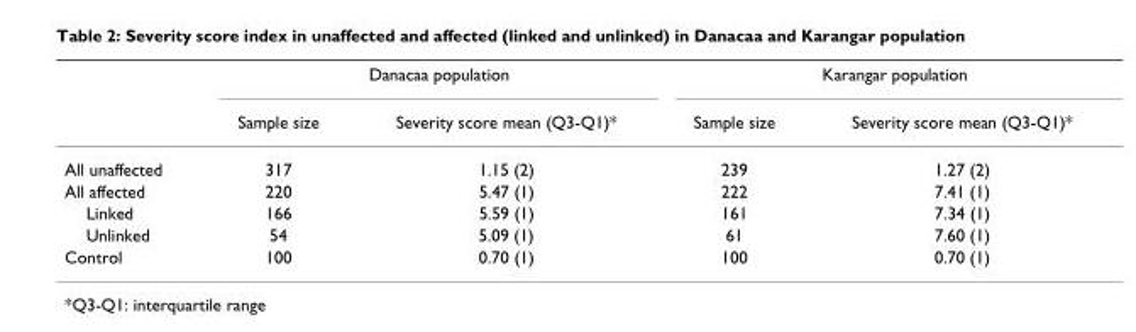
<table><thead><tr><td rowspan="2"></td><td colspan="2">Danacaa population</td><td colspan="2">Karangar population</td></tr><tr><td>Sample size</td><td>Severity score mean (Q3-Q1)*</td><td>Sample size</td><td>Severity score mean (Q3-Q1)*</td></tr></thead><tbody><tr><td>All unaffected</td><td>317</td><td>1.15 (2)</td><td>239</td><td>1.27 (2)</td></tr><tr><td>All affected</td><td>220</td><td>5.47 (1)</td><td>222</td><td>7.41 (1)</td></tr><tr><td>Linked</td><td>166</td><td>5.59 (1)</td><td>161</td><td>7.34 (1)</td></tr><tr><td>Unlinked</td><td>54</td><td>5.09 (1)</td><td>61</td><td>7.60 (1)</td></tr><tr><td>Control</td><td>100</td><td>0.70 (1)</td><td>100</td><td>0.70 (1)</td></tr></tbody></table>